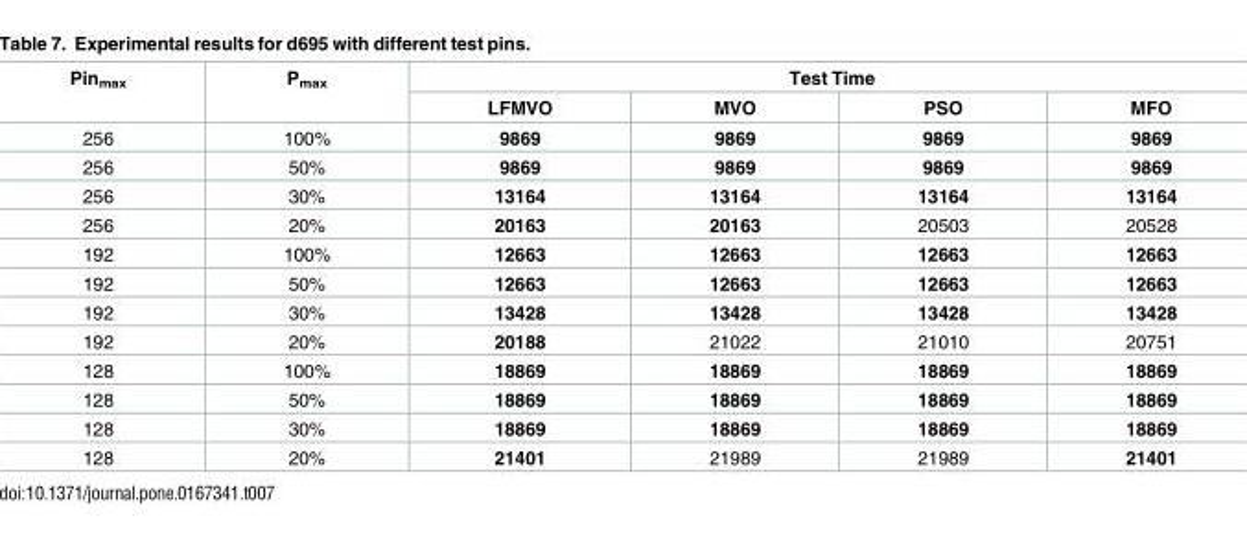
<table><thead><tr><td rowspan="2">Pin<sub>max</sub></td><td rowspan="2">P<sub>max</sub></td><td colspan="4">Test Time</td></tr><tr><td>LFMVO</td><td>MVO</td><td>PSO</td><td>MFO</td></tr></thead><tbody><tr><td>256</td><td>100%</td><td>9869</td><td>9869</td><td>9869</td><td>9869</td></tr><tr><td>256</td><td>50%</td><td>9869</td><td>9869</td><td>9869</td><td>9869</td></tr><tr><td>256</td><td>30%</td><td>13164</td><td>13164</td><td>13164</td><td>13164</td></tr><tr><td>256</td><td>20%</td><td>20163</td><td>20163</td><td>20503</td><td>20528</td></tr><tr><td>192</td><td>100%</td><td>12663</td><td>12663</td><td>12663</td><td>12663</td></tr><tr><td>192</td><td>50%</td><td>12663</td><td>12663</td><td>12663</td><td>12663</td></tr><tr><td>192</td><td>30%</td><td>13428</td><td>13428</td><td>13428</td><td>13428</td></tr><tr><td>192</td><td>20%</td><td>20188</td><td>21022</td><td>21010</td><td>20751</td></tr><tr><td>128</td><td>100%</td><td>18869</td><td>18869</td><td>18869</td><td>18869</td></tr><tr><td>128</td><td>50%</td><td>18869</td><td>18869</td><td>18869</td><td>18869</td></tr><tr><td>128</td><td>30%</td><td>18869</td><td>18869</td><td>18869</td><td>18869</td></tr><tr><td>128</td><td>20%</td><td>21401</td><td>21989</td><td>21989</td><td>21401</td></tr></tbody></table>